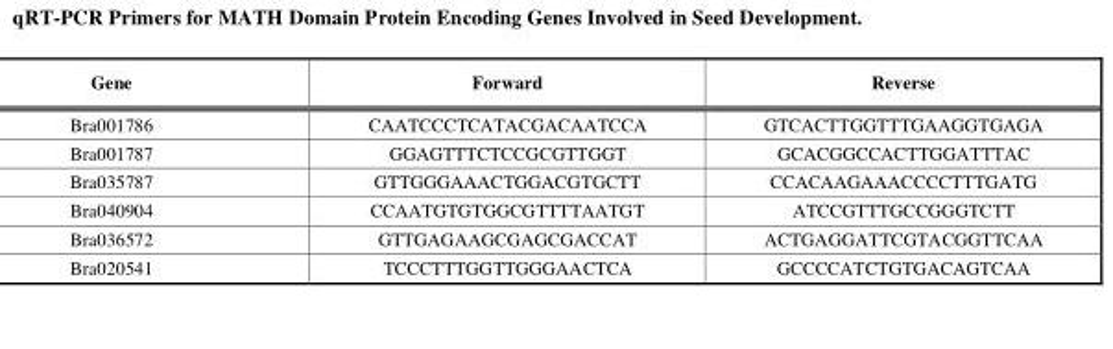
<table><thead><tr><td>Gene</td><td>Forward</td><td>Reverse</td></tr></thead><tbody><tr><td>Bra001786</td><td>CAATCCCTCATACGACAATCCA</td><td>GTCACTTGGTTTGAAGGTGAGA</td></tr><tr><td>Bra001787</td><td>GGAGTTTCTCCGCGTTGGT</td><td>GCACGGCCACTTGGATTTAC</td></tr><tr><td>Bra035787</td><td>GTTGGGAAACTGGACGTGCTT</td><td>CCACAAGAAACCCCTTTGATG</td></tr><tr><td>Bra040904</td><td>CCAATGTGTGGCGTTTTAATGT</td><td>ATCCGTTTGCCGGGTCTT</td></tr><tr><td>Bra036572</td><td>GTTGAGAAGCGAGCGACCAT</td><td>ACTGAGGATTCGTACGGTTCAA</td></tr><tr><td>Bra020541</td><td>TCCCTTTGGTTGGGAACTCA</td><td>GCCCCATCTGTGACAGTCAA</td></tr></tbody></table>